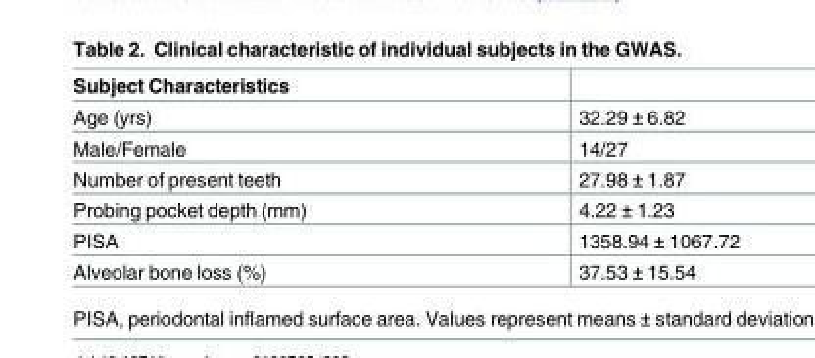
<table><thead><tr><td>Subject Characteristics</td><td></td></tr></thead><tbody><tr><td>Age (yrs)</td><td>32.29 ± 6.82</td></tr><tr><td>Male/Female</td><td>14/27</td></tr><tr><td>Number of present teeth</td><td>27.98 ± 1.87</td></tr><tr><td>Probing pocket depth (mm)</td><td>4.22 ± 1.23</td></tr><tr><td>PISA</td><td>1358.94 ± 1067.72</td></tr><tr><td>Alveolar bone loss (%)</td><td>37.53 ± 15.54</td></tr></tbody></table>